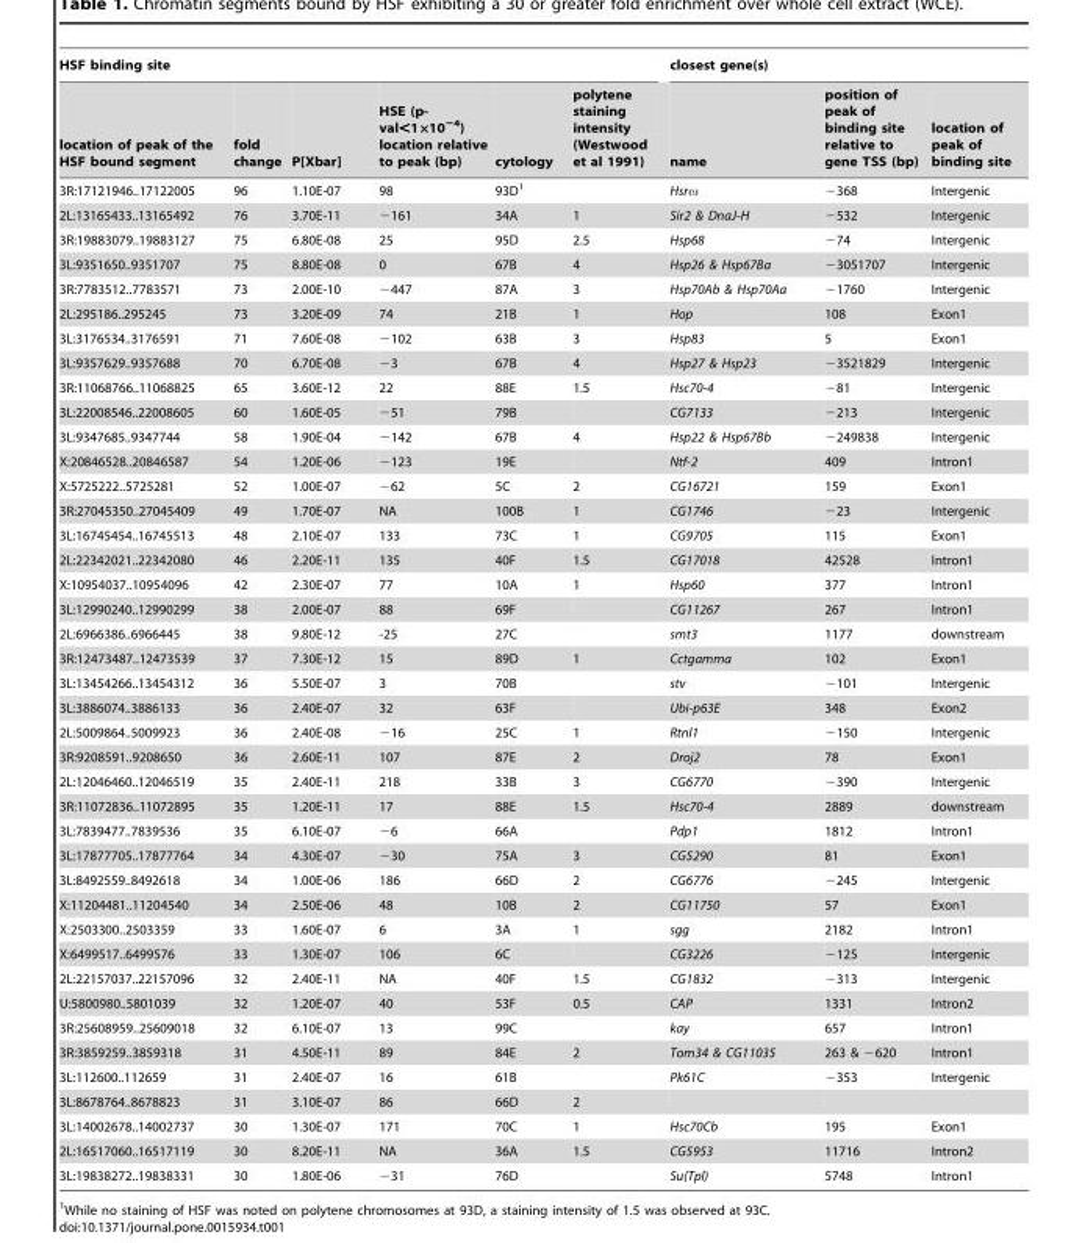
<table><thead><tr><td colspan="6">HSF binding site</td><td colspan="3">closest gene(s)</td></tr><tr><td>location of peak of the HSF bound segment</td><td>fold change</td><td>P[Xbar]</td><td>HSE (p- val&lt;1×10<sup>−4</sup>) location relative to peak (bp)</td><td>cytology</td><td>polytene staining intensity (Westwood et al 1991)</td><td>name</td><td>position of peak of binding site relative to gene TSS (bp)</td><td>location of peak of binding site</td></tr></thead><tbody><tr><td>3R:17121946..17122005</td><td>96</td><td>1.10E-07</td><td>98</td><td>93D<sup>1</sup></td><td></td><td>Hsrω</td><td>−368</td><td>Intergenic</td></tr><tr><td>2L:13165433..13165492</td><td>76</td><td>3.70E-11</td><td>−161</td><td>34A</td><td>1</td><td>Sir2 &amp; DnaJ-H</td><td>−532</td><td>Intergenic</td></tr><tr><td>3R:19883079..19883127</td><td>75</td><td>6.80E-08</td><td>25</td><td>95D</td><td>2.5</td><td>Hsp68</td><td>−74</td><td>Intergenic</td></tr><tr><td>3L:9351650..9351707</td><td>75</td><td>8.80E-08</td><td>0</td><td>67B</td><td>4</td><td>Hsp26 &amp; Hsp67Ba</td><td>−3051707</td><td>Intergenic</td></tr><tr><td>3R:7783512..7783571</td><td>73</td><td>2.00E-10</td><td>−447</td><td>87A</td><td>3</td><td>Hsp70Ab &amp; Hsp70Aa</td><td>−1760</td><td>Intergenic</td></tr><tr><td>2L:295186..295245</td><td>73</td><td>3.20E-09</td><td>74</td><td>21B</td><td>1</td><td>Hop</td><td>108</td><td>Exon1</td></tr><tr><td>3L:3176534..3176591</td><td>71</td><td>7.60E-08</td><td>−102</td><td>63B</td><td>3</td><td>Hsp83</td><td>5</td><td>Exon1</td></tr><tr><td>3L:9357629..9357688</td><td>70</td><td>6.70E-08</td><td>−3</td><td>67B</td><td>4</td><td>Hsp27 &amp; Hsp23</td><td>−3521829</td><td>Intergenic</td></tr><tr><td>3R:11068766..11068825</td><td>65</td><td>3.60E-12</td><td>22</td><td>88E</td><td>1.5</td><td>Hsc70-4</td><td>−81</td><td>Intergenic</td></tr><tr><td>3L:22008546..22008605</td><td>60</td><td>1.60E-05</td><td>−51</td><td>79B</td><td></td><td>CG7133</td><td>−213</td><td>Intergenic</td></tr><tr><td>3L:9347685..9347744</td><td>58</td><td>1.90E-04</td><td>−142</td><td>67B</td><td>4</td><td>Hsp22 &amp; Hsp67Bb</td><td>−249838</td><td>Intergenic</td></tr><tr><td>X:20846528..20846587</td><td>54</td><td>1.20E-06</td><td>−123</td><td>19E</td><td></td><td>Ntf-2</td><td>409</td><td>Intron1</td></tr><tr><td>X:5725222..5725281</td><td>52</td><td>1.00E-07</td><td>−62</td><td>5C</td><td>2</td><td>CG16721</td><td>159</td><td>Exon1</td></tr><tr><td>3R:27045350..27045409</td><td>49</td><td>1.70E-07</td><td>NA</td><td>100B</td><td>1</td><td>CG1746</td><td>−23</td><td>Intergenic</td></tr><tr><td>3L:16745454..16745513</td><td>48</td><td>2.10E-07</td><td>133</td><td>73C</td><td>1</td><td>CG9705</td><td>115</td><td>Exon1</td></tr><tr><td>2L:22342021..22342080</td><td>46</td><td>2.20E-11</td><td>135</td><td>40F</td><td>1.5</td><td>CG17018</td><td>42528</td><td>Intron1</td></tr><tr><td>X:10954037..10954096</td><td>42</td><td>2.30E-07</td><td>77</td><td>10A</td><td>1</td><td>Hsp60</td><td>377</td><td>Intron1</td></tr><tr><td>3L:12990240..12990299</td><td>38</td><td>2.00E-07</td><td>88</td><td>69F</td><td></td><td>CG11267</td><td>267</td><td>Intron1</td></tr><tr><td>2L:6966386..6966445</td><td>38</td><td>9.80E-12</td><td>-25</td><td>27C</td><td></td><td>smt3</td><td>1177</td><td>downstream</td></tr><tr><td>3R:12473487..12473539</td><td>37</td><td>7.30E-12</td><td>15</td><td>89D</td><td>1</td><td>Cctgamma</td><td>102</td><td>Exon1</td></tr><tr><td>3L:13454266..13454312</td><td>36</td><td>5.50E-07</td><td>3</td><td>70B</td><td></td><td>stv</td><td>−101</td><td>Intergenic</td></tr><tr><td>3L:3886074..3886133</td><td>36</td><td>2.40E-07</td><td>32</td><td>63F</td><td></td><td>Ubi-p63E</td><td>348</td><td>Exon2</td></tr><tr><td>2L:5009864..5009923</td><td>36</td><td>2.40E-08</td><td>−16</td><td>25C</td><td>1</td><td>Rtnl1</td><td>−150</td><td>Intergenic</td></tr><tr><td>3R:9208591..9208650</td><td>36</td><td>2.60E-11</td><td>107</td><td>87E</td><td>2</td><td>Droj2</td><td>78</td><td>Exon1</td></tr><tr><td>2L:12046460..12046519</td><td>35</td><td>2.40E-11</td><td>218</td><td>33B</td><td>3</td><td>CG6770</td><td>−390</td><td>Intergenic</td></tr><tr><td>3R:11072836..11072895</td><td>35</td><td>1.20E-11</td><td>17</td><td>88E</td><td>1.5</td><td>Hsc70-4</td><td>2889</td><td>downstream</td></tr><tr><td>3L:7839477..7839536</td><td>35</td><td>6.10E-07</td><td>−6</td><td>66A</td><td></td><td>Pdp1</td><td>1812</td><td>Intron1</td></tr><tr><td>3L:17877705..17877764</td><td>34</td><td>4.30E-07</td><td>−30</td><td>75A</td><td>3</td><td>CG5290</td><td>81</td><td>Exon1</td></tr><tr><td>3L:8492559..8492618</td><td>34</td><td>1.00E-06</td><td>186</td><td>66D</td><td>2</td><td>CG6776</td><td>−245</td><td>Intergenic</td></tr><tr><td>X:11204481..11204540</td><td>34</td><td>2.50E-06</td><td>48</td><td>10B</td><td>2</td><td>CG11750</td><td>57</td><td>Exon1</td></tr><tr><td>X:2503300..2503359</td><td>33</td><td>1.60E-07</td><td>6</td><td>3A</td><td>1</td><td>sgg</td><td>2182</td><td>Intron1</td></tr><tr><td>X:6499517..6499576</td><td>33</td><td>1.30E-07</td><td>106</td><td>6C</td><td></td><td>CG3226</td><td>−125</td><td>Intergenic</td></tr><tr><td>2L:22157037..22157096</td><td>32</td><td>2.40E-11</td><td>NA</td><td>40F</td><td>1.5</td><td>CG1832</td><td>−313</td><td>Intergenic</td></tr><tr><td>U:5800980..5801039</td><td>32</td><td>1.20E-07</td><td>40</td><td>53F</td><td>0.5</td><td>CAP</td><td>1331</td><td>Intron2</td></tr><tr><td>3R:25608959..25609018</td><td>32</td><td>6.10E-07</td><td>13</td><td>99C</td><td></td><td>kay</td><td>657</td><td>Intron1</td></tr><tr><td>3R:3859259..3859318</td><td>31</td><td>4.50E-11</td><td>89</td><td>84E</td><td>2</td><td>Tom34 &amp; CG11035</td><td>263 &amp; −620</td><td>Intron1</td></tr><tr><td>3L:112600..112659</td><td>31</td><td>2.40E-07</td><td>16</td><td>61B</td><td></td><td>Pk61C</td><td>−353</td><td>Intergenic</td></tr><tr><td>3L:8678764..8678823</td><td>31</td><td>3.10E-07</td><td>86</td><td>66D</td><td>2</td><td></td><td></td><td></td></tr><tr><td>3L:14002678..14002737</td><td>30</td><td>1.30E-07</td><td>171</td><td>70C</td><td>1</td><td>Hsc70Cb</td><td>195</td><td>Exon1</td></tr><tr><td>2L:16517060..16517119</td><td>30</td><td>8.20E-11</td><td>NA</td><td>36A</td><td>1.5</td><td>CG5953</td><td>11716</td><td>Intron2</td></tr><tr><td>3L:19838272..19838331</td><td>30</td><td>1.80E-06</td><td>−31</td><td>76D</td><td></td><td>Su(Tpl)</td><td>5748</td><td>Intron1</td></tr></tbody></table>